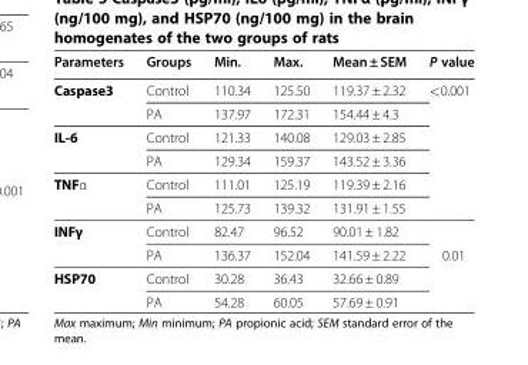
<table><thead><tr><td>Parameters</td><td>Groups</td><td>Min.</td><td>Max.</td><td>Mean ± SEM</td><td>P value</td></tr></thead><tbody><tr><td rowspan="2">Caspase3</td><td>Control</td><td>110.34</td><td>125.50</td><td>119.37 ± 2.32</td><td>&lt;0.001</td></tr><tr><td>PA</td><td>137.97</td><td>172.31</td><td>154.44 ± 4.3</td><td></td></tr><tr><td rowspan="2">IL-6</td><td>Control</td><td>121.33</td><td>140.08</td><td>129.03 ± 2.85</td><td></td></tr><tr><td>PA</td><td>129.34</td><td>159.37</td><td>143.52 ± 3.36</td><td></td></tr><tr><td rowspan="2">TNFα</td><td>Control</td><td>111.01</td><td>125.19</td><td>119.39 ± 2.16</td><td></td></tr><tr><td>PA</td><td>125.73</td><td>139.32</td><td>131.91 ± 1.55</td><td></td></tr><tr><td rowspan="2">INFγ</td><td>Control</td><td>82.47</td><td>96.52</td><td>90.01 ± 1.82</td><td></td></tr><tr><td>PA</td><td>136.37</td><td>152.04</td><td>141.59 ± 2.22</td><td>0.01</td></tr><tr><td rowspan="2">HSP70</td><td>Control</td><td>30.28</td><td>36.43</td><td>32.66 ± 0.89</td><td></td></tr><tr><td>PA</td><td>54.28</td><td>60.05</td><td>57.69 ± 0.91</td><td></td></tr></tbody></table>